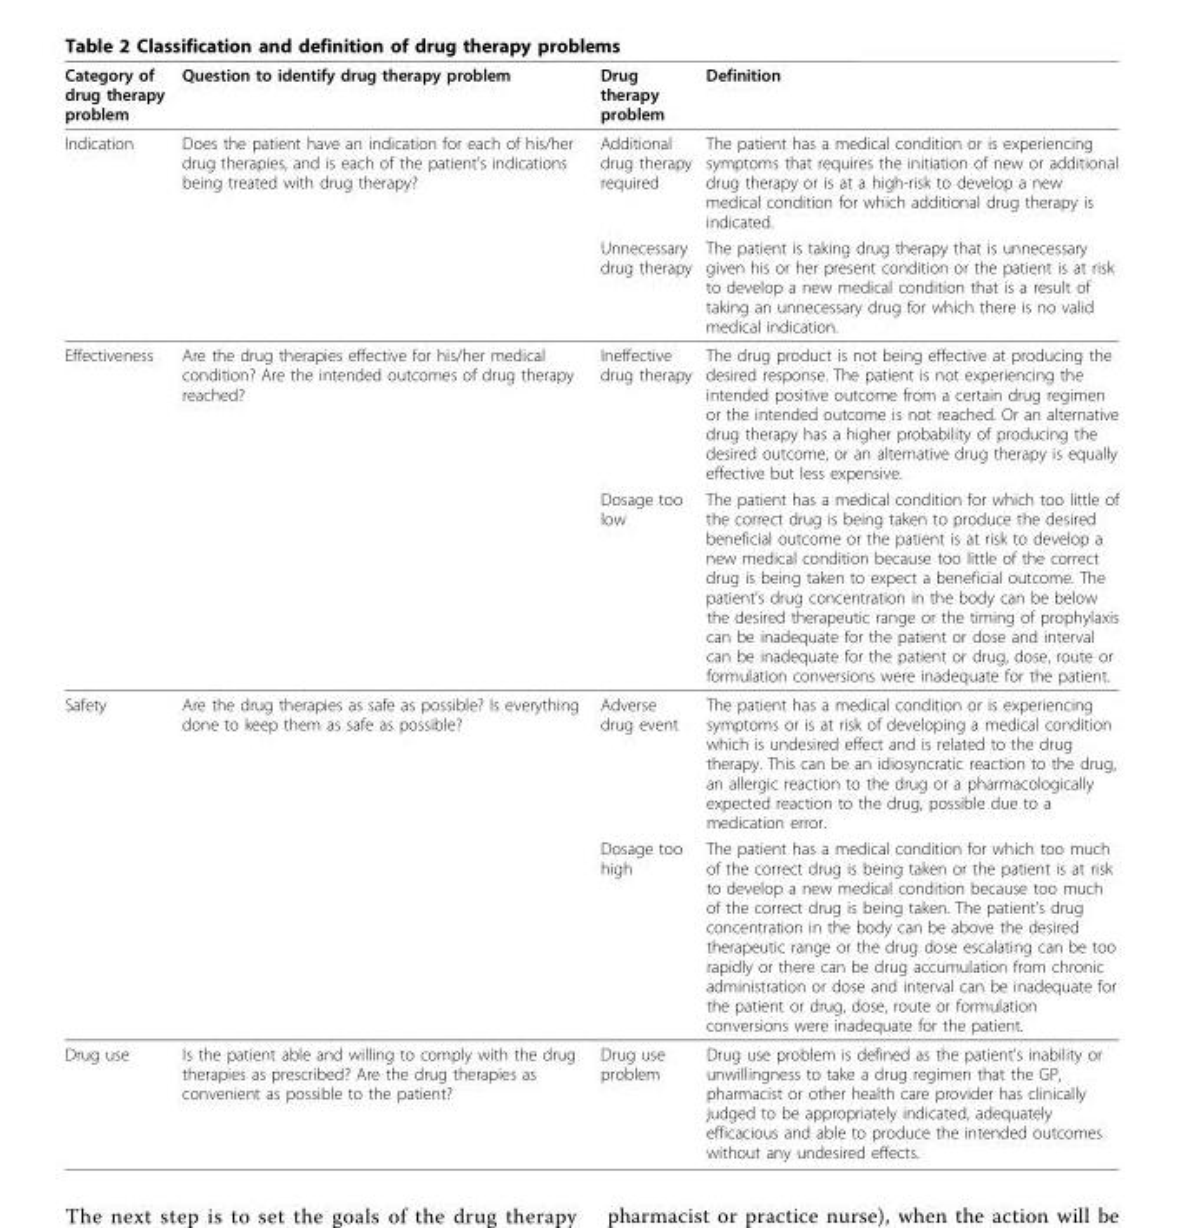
<table><thead><tr><td>Category of drug therapy problem</td><td>Question to identify drug therapy problem</td><td>Drug therapy problem</td><td>Definition</td></tr></thead><tbody><tr><td rowspan="2">Indication</td><td>Does the patient have an indication for each of his/her drug therapies, and is each of the patient’s indications being treated with drug therapy?</td><td>Additional drug therapy required</td><td>The patient has a medical condition or is experiencing symptoms that requires the initiation of new or additional drug therapy or is at a high-risk to develop a new medical condition for which additional drug therapy is indicated.</td></tr><tr><td></td><td>Unnecessary drug therapy</td><td>The patient is taking drug therapy that is unnecessary given his or her present condition or the patient is at risk to develop a new medical condition that is a result of taking an unnecessary drug for which there is no valid medical indication.</td></tr><tr><td rowspan="2">Effectiveness</td><td>Are the drug therapies effective for his/her medical condition? Are the intended outcomes of drug therapy reached?</td><td>Ineffective drug therapy</td><td>The drug product is not being effective at producing the desired response. The patient is not experiencing the intended positive outcome from a certain drug regimen or the intended outcome is not reached. Or an alternative drug therapy has a higher probability of producing the desired outcome, or an alternative drug therapy is equally effective but less expensive.</td></tr><tr><td></td><td>Dosage too low</td><td>The patient has a medical condition for which too little of the correct drug is being taken to produce the desired beneficial outcome or the patient is at risk to develop a new medical condition because too little of the correct drug is being taken to expect a beneficial outcome. The patient’s drug concentration in the body can be below the desired therapeutic range or the timing of prophylaxis can be inadequate for the patient or dose and interval can be inadequate for the patient or drug, dose, route or formulation conversions were inadequate for the patient.</td></tr><tr><td rowspan="2">Safety</td><td>Are the drug therapies as safe as possible? Is everything done to keep them as safe as possible?</td><td>Adverse drug event</td><td>The patient has a medical condition or is experiencing symptoms or is at risk of developing a medical condition which is undesired effect and is related to the drug therapy. This can be an idiosyncratic reaction to the drug, an allergic reaction to the drug or a pharmacologically expected reaction to the drug, possible due to a medication error.</td></tr><tr><td></td><td>Dosage too high</td><td>The patient has a medical condition for which too much of the correct drug is being taken or the patient is at risk to develop a new medical condition because too much of the correct drug is being taken. The patient’s drug concentration in the body can be above the desired therapeutic range or the drug dose escalating can be too rapidly or there can be drug accumulation from chronic administration or dose and interval can be inadequate for the patient or drug, dose, route or formulation conversions were inadequate for the patient.</td></tr><tr><td>Drug use</td><td>Is the patient able and willing to comply with the drug therapies as prescribed? Are the drug therapies as convenient as possible to the patient?</td><td>Drug use problem</td><td>Drug use problem is defined as the patient’s inability or unwillingness to take a drug regimen that the GP, pharmacist or other health care provider has clinically judged to be appropriately indicated, adequately efficacious and able to produce the intended outcomes without any undesired effects.</td></tr></tbody></table>